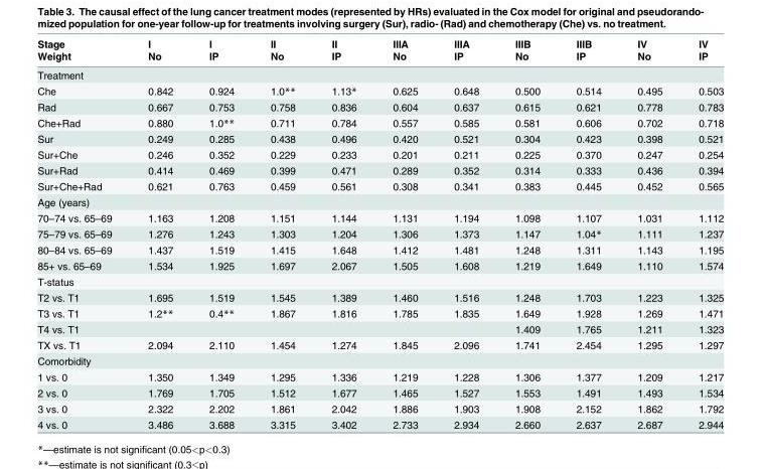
<table><thead><tr><td rowspan="2">Stage Weight</td><td rowspan="2">I No</td><td rowspan="2">I IP</td><td rowspan="2">II No</td><td rowspan="2">II IP</td><td rowspan="2">IIIA No</td><td rowspan="2">IIIA IP</td><td rowspan="2">IIIB No</td><td rowspan="2">IIIB IP</td><td rowspan="2">IV No</td><td rowspan="2">IV IP</td></tr><tr></tr></thead><tbody><tr><td colspan="11">Treatment</td></tr><tr><td>Che</td><td>0.842</td><td>0.924</td><td>1.0**</td><td>1.13*</td><td>0.625</td><td>0.648</td><td>0.500</td><td>0.514</td><td>0.495</td><td>0.503</td></tr><tr><td>Rad</td><td>0.667</td><td>0.753</td><td>0.758</td><td>0.836</td><td>0.604</td><td>0.637</td><td>0.615</td><td>0.621</td><td>0.778</td><td>0.783</td></tr><tr><td>Che+Rad</td><td>0.880</td><td>1.0**</td><td>0.711</td><td>0.784</td><td>0.557</td><td>0.585</td><td>0.581</td><td>0.606</td><td>0.702</td><td>0.718</td></tr><tr><td>Sur</td><td>0.249</td><td>0.285</td><td>0.438</td><td>0.496</td><td>0.420</td><td>0.521</td><td>0.304</td><td>0.423</td><td>0.398</td><td>0.521</td></tr><tr><td>Sur+Che</td><td>0.246</td><td>0.352</td><td>0.229</td><td>0.233</td><td>0.201</td><td>0.211</td><td>0.225</td><td>0.370</td><td>0.247</td><td>0.254</td></tr><tr><td>Sur+Rad</td><td>0.414</td><td>0.469</td><td>0.399</td><td>0.471</td><td>0.289</td><td>0.352</td><td>0.314</td><td>0.333</td><td>0.436</td><td>0.394</td></tr><tr><td>Sur+Che+Rad</td><td>0.621</td><td>0.763</td><td>0.459</td><td>0.561</td><td>0.308</td><td>0.341</td><td>0.383</td><td>0.445</td><td>0.452</td><td>0.565</td></tr><tr><td colspan="11">Age (years)</td></tr><tr><td>70–74 vs. 65–69</td><td>1.163</td><td>1.208</td><td>1.151</td><td>1.144</td><td>1.131</td><td>1.194</td><td>1.098</td><td>1.107</td><td>1.031</td><td>1.112</td></tr><tr><td>75–79 vs. 65–69</td><td>1.276</td><td>1.243</td><td>1.303</td><td>1.204</td><td>1.306</td><td>1.373</td><td>1.147</td><td>1.04*</td><td>1.111</td><td>1.237</td></tr><tr><td>80–84 vs. 65–69</td><td>1.437</td><td>1.519</td><td>1.415</td><td>1.648</td><td>1.412</td><td>1.481</td><td>1.248</td><td>1.311</td><td>1.143</td><td>1.195</td></tr><tr><td>85+ vs. 65–69</td><td>1.534</td><td>1.925</td><td>1.697</td><td>2.067</td><td>1.505</td><td>1.608</td><td>1.219</td><td>1.649</td><td>1.110</td><td>1.574</td></tr><tr><td colspan="11">T-status</td></tr><tr><td>T2 vs. T1</td><td>1.695</td><td>1.519</td><td>1.545</td><td>1.389</td><td>1.460</td><td>1.516</td><td>1.248</td><td>1.703</td><td>1.223</td><td>1.325</td></tr><tr><td>T3 vs. T1</td><td>1.2**</td><td>0.4**</td><td>1.867</td><td>1.816</td><td>1.785</td><td>1.835</td><td>1.649</td><td>1.928</td><td>1.269</td><td>1.471</td></tr><tr><td>T4 vs. T1</td><td></td><td></td><td></td><td></td><td></td><td></td><td>1.409</td><td>1.765</td><td>1.211</td><td>1.323</td></tr><tr><td>TX vs. T1</td><td>2.094</td><td>2.110</td><td>1.454</td><td>1.274</td><td>1.845</td><td>2.096</td><td>1.741</td><td>2.454</td><td>1.295</td><td>1.297</td></tr><tr><td colspan="11">Comorbidity</td></tr><tr><td>1 vs. 0</td><td>1.350</td><td>1.349</td><td>1.295</td><td>1.336</td><td>1.219</td><td>1.228</td><td>1.306</td><td>1.377</td><td>1.209</td><td>1.217</td></tr><tr><td>2 vs. 0</td><td>1.769</td><td>1.705</td><td>1.512</td><td>1.677</td><td>1.465</td><td>1.527</td><td>1.553</td><td>1.491</td><td>1.493</td><td>1.534</td></tr><tr><td>3 vs. 0</td><td>2.322</td><td>2.202</td><td>1.861</td><td>2.042</td><td>1.886</td><td>1.903</td><td>1.908</td><td>2.152</td><td>1.862</td><td>1.792</td></tr><tr><td>4 vs. 0</td><td>3.486</td><td>3.688</td><td>3.315</td><td>3.402</td><td>2.733</td><td>2.934</td><td>2.660</td><td>2.637</td><td>2.687</td><td>2.944</td></tr></tbody></table>